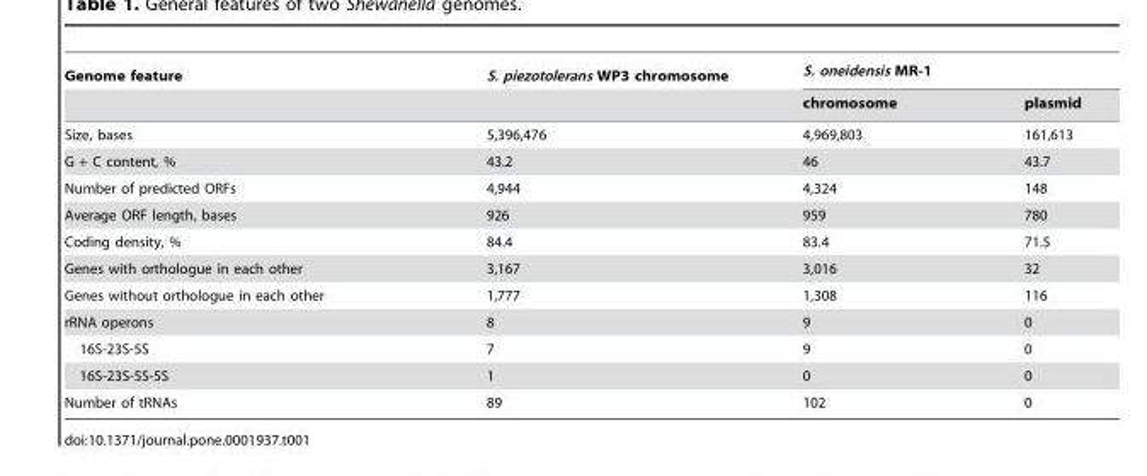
<table><thead><tr><td rowspan="2">Genome feature</td><td rowspan="2">S. piezotolerans WP3 chromosome</td><td colspan="2">S. oneidensis MR-1</td></tr><tr><td>chromosome</td><td>plasmid</td></tr></thead><tbody><tr><td>Size, bases</td><td>5,396,476</td><td>4,969,803</td><td>161,613</td></tr><tr><td>G + C content, %</td><td>43.2</td><td>46</td><td>43.7</td></tr><tr><td>Number of predicted ORFs</td><td>4,944</td><td>4,324</td><td>148</td></tr><tr><td>Average ORF length, bases</td><td>926</td><td>959</td><td>780</td></tr><tr><td>Coding density, %</td><td>84.4</td><td>83.4</td><td>71.5</td></tr><tr><td>Genes with orthologue in each other</td><td>3,167</td><td>3,016</td><td>32</td></tr><tr><td>Genes without orthologue in each other</td><td>1,777</td><td>1,308</td><td>116</td></tr><tr><td>rRNA operons</td><td>8</td><td>9</td><td>0</td></tr><tr><td>16S-23S-5S</td><td>7</td><td>9</td><td>0</td></tr><tr><td>16S-23S-5S-5S</td><td>1</td><td>0</td><td>0</td></tr><tr><td>Number of tRNAs</td><td>89</td><td>102</td><td>0</td></tr></tbody></table>